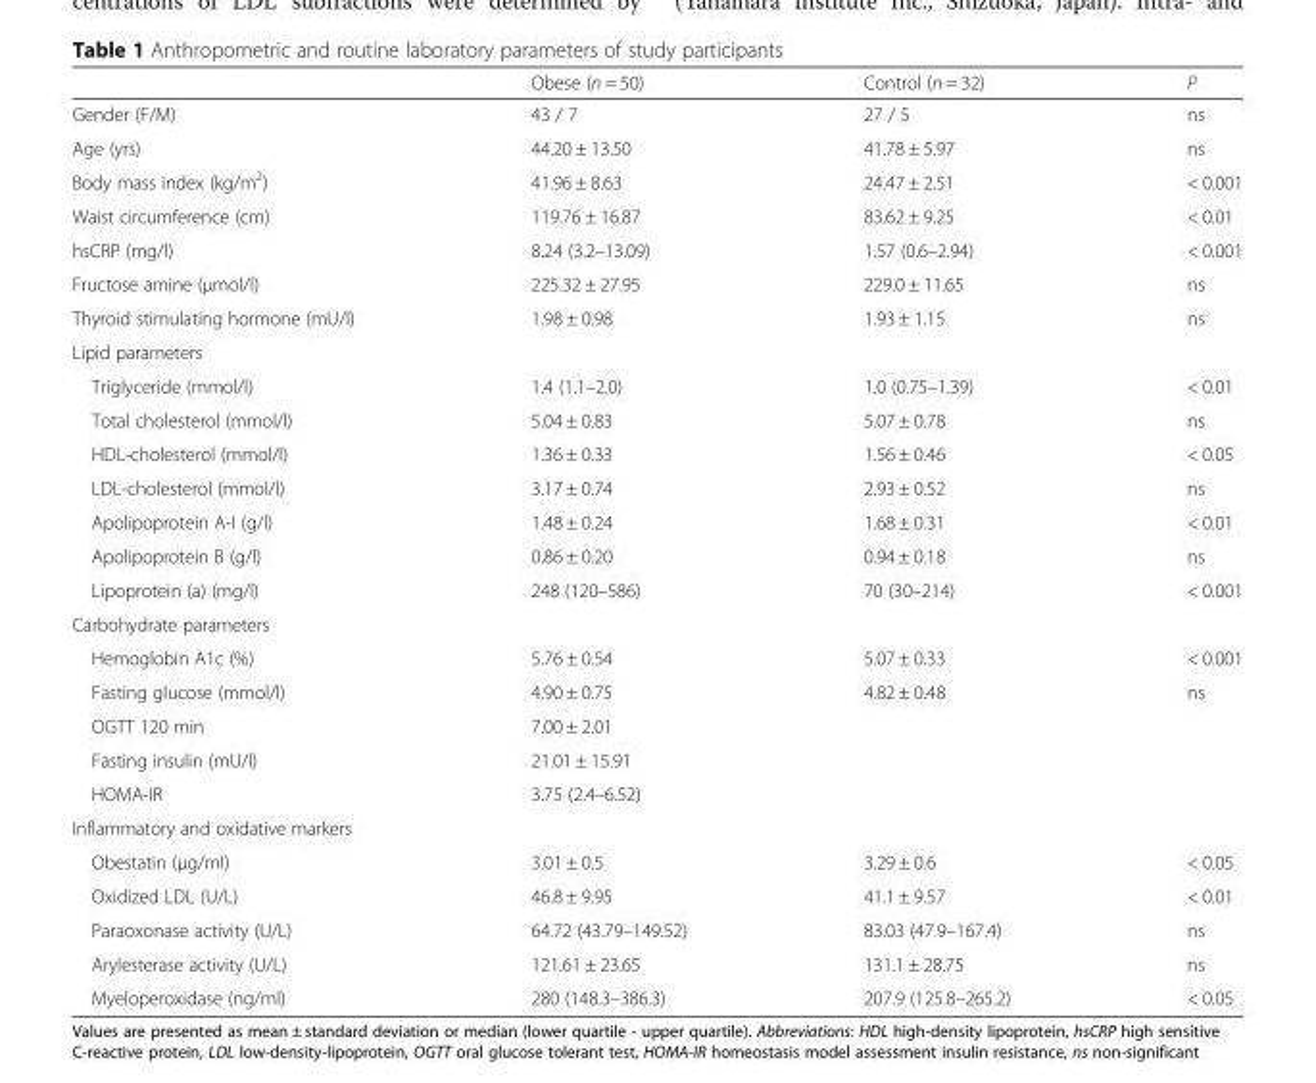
<table><thead><tr><td></td><td>Obese (n = 50)</td><td>Control (n = 32)</td><td>P</td></tr></thead><tbody><tr><td>Gender (F/M)</td><td>43 / 7</td><td>27 / 5</td><td>ns</td></tr><tr><td>Age (yrs)</td><td>44.20 ± 13.50</td><td>41.78 ± 5.97</td><td>ns</td></tr><tr><td>Body mass index (kg/m<sup>2</sup>)</td><td>41.96 ± 8.63</td><td>24.47 ± 2.51</td><td>&lt; 0.001</td></tr><tr><td>Waist circumference (cm)</td><td>119.76 ± 16.87</td><td>83.62 ± 9.25</td><td>&lt; 0.01</td></tr><tr><td>hsCRP (mg/l)</td><td>8.24 (3.2–13.09)</td><td>1.57 (0.6–2.94)</td><td>&lt; 0.001</td></tr><tr><td>Fructose amine (μmol/l)</td><td>225.32 ± 27.95</td><td>229.0 ± 11.65</td><td>ns</td></tr><tr><td>Thyroid stimulating hormone (mU/l)</td><td>1.98 ± 0.98</td><td>1.93 ± 1.15</td><td>ns</td></tr><tr><td colspan="4">Lipid parameters</td></tr><tr><td>Triglyceride (mmol/l)</td><td>1.4 (1.1–2.0)</td><td>1.0 (0.75–1.39)</td><td>&lt; 0.01</td></tr><tr><td>Total cholesterol (mmol/l)</td><td>5.04 ± 0.83</td><td>5.07 ± 0.78</td><td>ns</td></tr><tr><td>HDL-cholesterol (mmol/l)</td><td>1.36 ± 0.33</td><td>1.56 ± 0.46</td><td>&lt; 0.05</td></tr><tr><td>LDL-cholesterol (mmol/l)</td><td>3.17 ± 0.74</td><td>2.93 ± 0.52</td><td>ns</td></tr><tr><td>Apolipoprotein A-I (g/l)</td><td>1.48 ± 0.24</td><td>1.68 ± 0.31</td><td>&lt; 0.01</td></tr><tr><td>Apolipoprotein B (g/l)</td><td>0.86 ± 0.20</td><td>0.94 ± 0.18</td><td>ns</td></tr><tr><td>Lipoprotein (a) (mg/l)</td><td>248 (120–586)</td><td>70 (30–214)</td><td>&lt; 0.001</td></tr><tr><td colspan="4">Carbohydrate parameters</td></tr><tr><td>Hemoglobin A1c (%)</td><td>5.76 ± 0.54</td><td>5.07 ± 0.33</td><td>&lt; 0.001</td></tr><tr><td>Fasting glucose (mmol/l)</td><td>4.90 ± 0.75</td><td>4.82 ± 0.48</td><td>ns</td></tr><tr><td>OGTT 120 min</td><td>7.00 ± 2.01</td><td></td><td rowspan="3"></td></tr><tr><td>Fasting insulin (mU/l)</td><td>21.01 ± 15.91</td><td></td></tr><tr><td>HOMA-IR</td><td>3.75 (2.4–6.52)</td><td></td></tr><tr><td colspan="4">Inflammatory and oxidative markers</td></tr><tr><td>Obestatin (μg/ml)</td><td>3.01 ± 0.5</td><td>3.29 ± 0.6</td><td>&lt; 0.05</td></tr><tr><td>Oxidized LDL (U/L)</td><td>46.8 ± 9.95</td><td>41.1 ± 9.57</td><td>&lt; 0.01</td></tr><tr><td>Paraoxonase activity (U/L)</td><td>64.72 (43.79–149.52)</td><td>83.03 (47.9–167.4)</td><td>ns</td></tr><tr><td>Arylesterase activity (U/L)</td><td>121.61 ± 23.65</td><td>131.1 ± 28.75</td><td>ns</td></tr><tr><td>Myeloperoxidase (ng/ml)</td><td>280 (148.3–386.3)</td><td>207.9 (125.8–265.2)</td><td>&lt; 0.05</td></tr></tbody></table>